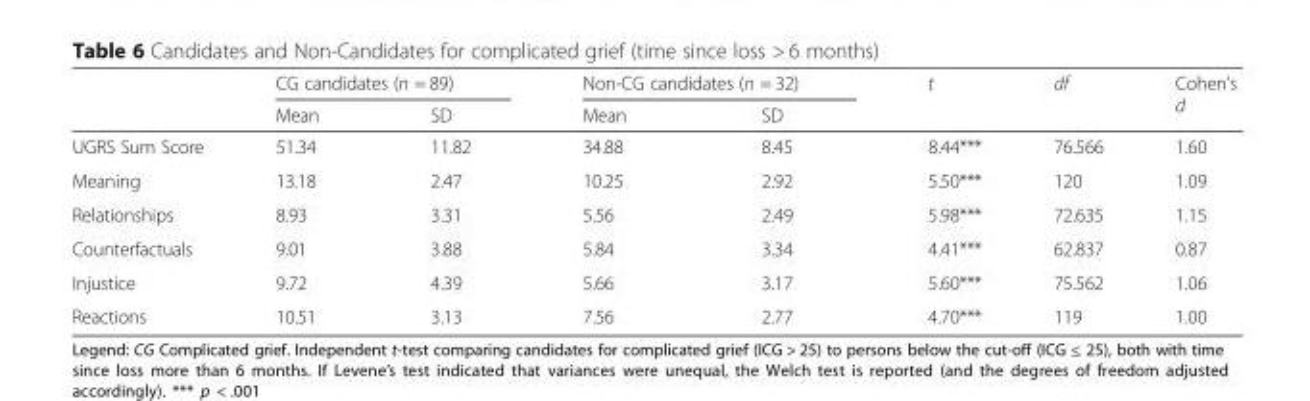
<table><thead><tr><td rowspan="2"></td><td colspan="2">CG candidates (n = 89)</td><td colspan="2">Non-CG candidates (n = 32)</td><td rowspan="2">t</td><td rowspan="2">df</td><td rowspan="2">Cohen’s d</td></tr><tr><td>Mean</td><td>SD</td><td>Mean</td><td>SD</td></tr></thead><tbody><tr><td>UGRS Sum Score</td><td>51.34</td><td>11.82</td><td>34.88</td><td>8.45</td><td>8.44***</td><td>76.566</td><td>1.60</td></tr><tr><td>Meaning</td><td>13.18</td><td>2.47</td><td>10.25</td><td>2.92</td><td>5.50***</td><td>120</td><td>1.09</td></tr><tr><td>Relationships</td><td>8.93</td><td>3.31</td><td>5.56</td><td>2.49</td><td>5.98***</td><td>72.635</td><td>1.15</td></tr><tr><td>Counterfactuals</td><td>9.01</td><td>3.88</td><td>5.84</td><td>3.34</td><td>4.41***</td><td>62.837</td><td>0.87</td></tr><tr><td>Injustice</td><td>9.72</td><td>4.39</td><td>5.66</td><td>3.17</td><td>5.60***</td><td>75.562</td><td>1.06</td></tr><tr><td>Reactions</td><td>10.51</td><td>3.13</td><td>7.56</td><td>2.77</td><td>4.70***</td><td>119</td><td>1.00</td></tr></tbody></table>